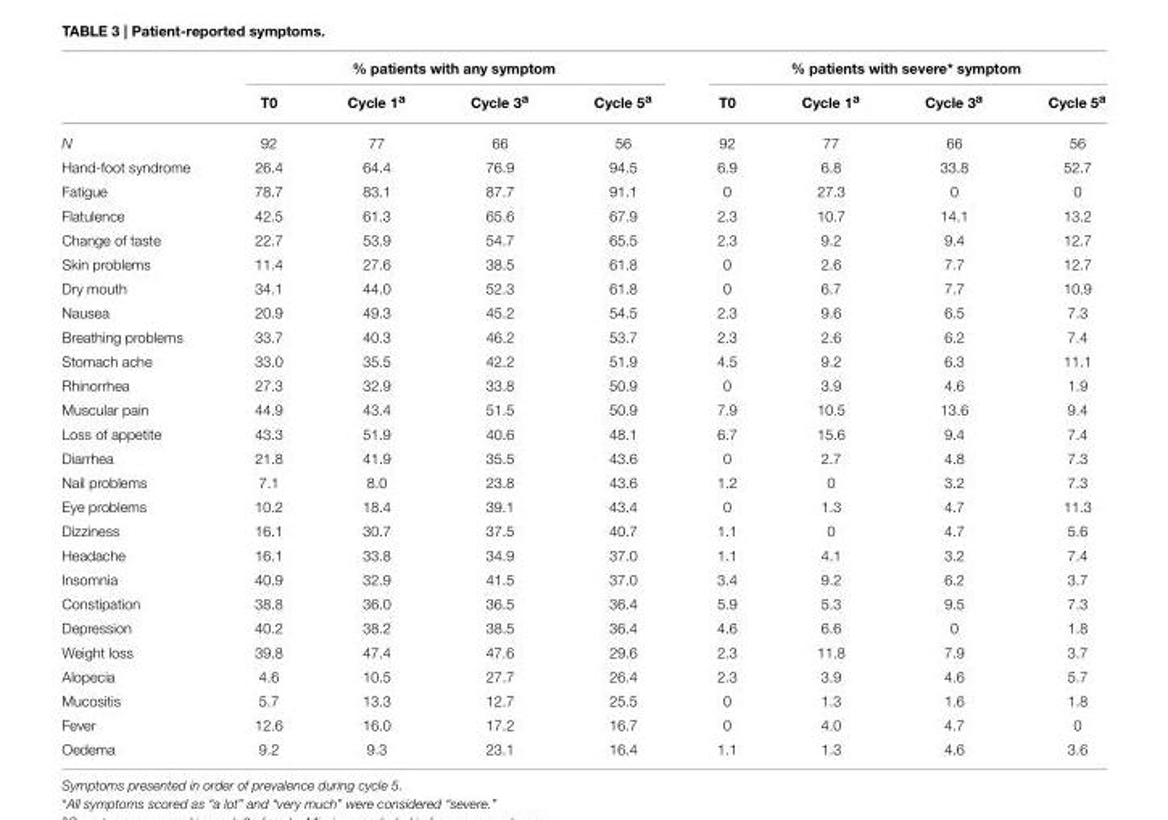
<table><thead><tr><td rowspan="2"></td><td colspan="4">% patients with any symptom</td><td colspan="4">% patients with severe* symptom</td></tr><tr><td>T0</td><td>Cycle 1<sup>a</sup></td><td>Cycle 3<sup>a</sup></td><td>Cycle 5<sup>a</sup></td><td>T0</td><td>Cycle 1<sup>a</sup></td><td>Cycle 3<sup>a</sup></td><td>Cycle 5<sup>a</sup></td></tr></thead><tbody><tr><td>N</td><td>92</td><td>77</td><td>66</td><td>56</td><td>92</td><td>77</td><td>66</td><td>56</td></tr><tr><td>Hand-foot syndrome</td><td>26.4</td><td>64.4</td><td>76.9</td><td>94.5</td><td>6.9</td><td>6.8</td><td>33.8</td><td>52.7</td></tr><tr><td>Fatigue</td><td>78.7</td><td>83.1</td><td>87.7</td><td>91.1</td><td>0</td><td>27.3</td><td>0</td><td>0</td></tr><tr><td>Flatulence</td><td>42.5</td><td>61.3</td><td>65.6</td><td>67.9</td><td>2.3</td><td>10.7</td><td>14.1</td><td>13.2</td></tr><tr><td>Change of taste</td><td>22.7</td><td>53.9</td><td>54.7</td><td>65.5</td><td>2.3</td><td>9.2</td><td>9.4</td><td>12.7</td></tr><tr><td>Skin problems</td><td>11.4</td><td>27.6</td><td>38.5</td><td>61.8</td><td>0</td><td>2.6</td><td>7.7</td><td>12.7</td></tr><tr><td>Dry mouth</td><td>34.1</td><td>44.0</td><td>52.3</td><td>61.8</td><td>0</td><td>6.7</td><td>7.7</td><td>10.9</td></tr><tr><td>Nausea</td><td>20.9</td><td>49.3</td><td>45.2</td><td>54.5</td><td>2.3</td><td>9.6</td><td>6.5</td><td>7.3</td></tr><tr><td>Breathing problems</td><td>33.7</td><td>40.3</td><td>46.2</td><td>53.7</td><td>2.3</td><td>2.6</td><td>6.2</td><td>7.4</td></tr><tr><td>Stomach ache</td><td>33.0</td><td>35.5</td><td>42.2</td><td>51.9</td><td>4.5</td><td>9.2</td><td>6.3</td><td>11.1</td></tr><tr><td>Rhinorrhea</td><td>27.3</td><td>32.9</td><td>33.8</td><td>50.9</td><td>0</td><td>3.9</td><td>4.6</td><td>1.9</td></tr><tr><td>Muscular pain</td><td>44.9</td><td>43.4</td><td>51.5</td><td>50.9</td><td>7.9</td><td>10.5</td><td>13.6</td><td>9.4</td></tr><tr><td>Loss of appetite</td><td>43.3</td><td>51.9</td><td>40.6</td><td>48.1</td><td>6.7</td><td>15.6</td><td>9.4</td><td>7.4</td></tr><tr><td>Diarrhea</td><td>21.8</td><td>41.9</td><td>35.5</td><td>43.6</td><td>0</td><td>2.7</td><td>4.8</td><td>7.3</td></tr><tr><td>Nail problems</td><td>7.1</td><td>8.0</td><td>23.8</td><td>43.6</td><td>1.2</td><td>0</td><td>3.2</td><td>7.3</td></tr><tr><td>Eye problems</td><td>10.2</td><td>18.4</td><td>39.1</td><td>43.4</td><td>0</td><td>1.3</td><td>4.7</td><td>11.3</td></tr><tr><td>Dizziness</td><td>16.1</td><td>30.7</td><td>37.5</td><td>40.7</td><td>1.1</td><td>0</td><td>4.7</td><td>5.6</td></tr><tr><td>Headache</td><td>16.1</td><td>33.8</td><td>34.9</td><td>37.0</td><td>1.1</td><td>4.1</td><td>3.2</td><td>7.4</td></tr><tr><td>Insomnia</td><td>40.9</td><td>32.9</td><td>41.5</td><td>37.0</td><td>3.4</td><td>9.2</td><td>6.2</td><td>3.7</td></tr><tr><td>Constipation</td><td>38.8</td><td>36.0</td><td>36.5</td><td>36.4</td><td>5.9</td><td>5.3</td><td>9.5</td><td>7.3</td></tr><tr><td>Depression</td><td>40.2</td><td>38.2</td><td>38.5</td><td>36.4</td><td>4.6</td><td>6.6</td><td>0</td><td>1.8</td></tr><tr><td>Weight loss</td><td>39.8</td><td>47.4</td><td>47.6</td><td>29.6</td><td>2.3</td><td>11.8</td><td>7.9</td><td>3.7</td></tr><tr><td>Alopecia</td><td>4.6</td><td>10.5</td><td>27.7</td><td>26.4</td><td>2.3</td><td>3.9</td><td>4.6</td><td>5.7</td></tr><tr><td>Mucositis</td><td>5.7</td><td>13.3</td><td>12.7</td><td>25.5</td><td>0</td><td>1.3</td><td>1.6</td><td>1.8</td></tr><tr><td>Fever</td><td>12.6</td><td>16.0</td><td>17.2</td><td>16.7</td><td>0</td><td>4.0</td><td>4.7</td><td>0</td></tr><tr><td>Oedema</td><td>9.2</td><td>9.3</td><td>23.1</td><td>16.4</td><td>1.1</td><td>1.3</td><td>4.6</td><td>3.6</td></tr></tbody></table>